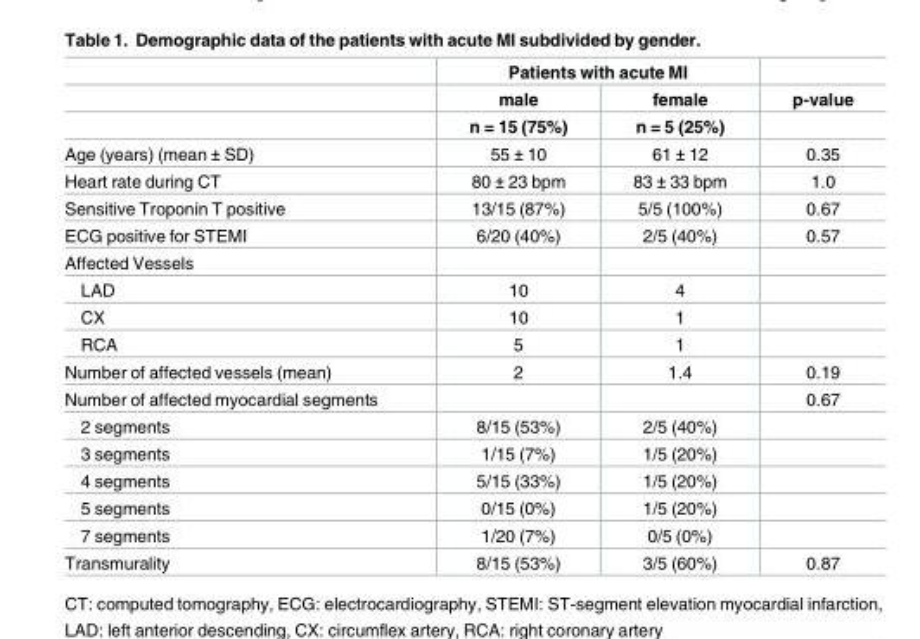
<table><thead><tr><td rowspan="2"></td><td colspan="2">Patients with acute MI</td><td rowspan="2">p-value</td></tr><tr><td>male</td><td>female</td></tr></thead><tbody><tr><td></td><td>n = 15 (75%)</td><td>n = 5 (25%)</td><td></td></tr><tr><td>Age (years) (mean ± SD)</td><td>55 ± 10</td><td>61 ± 12</td><td>0.35</td></tr><tr><td>Heart rate during CT</td><td>80 ± 23 bpm</td><td>83 ± 33 bpm</td><td>1.0</td></tr><tr><td>Sensitive Troponin T positive</td><td>13/15 (87%)</td><td>5/5 (100%)</td><td>0.67</td></tr><tr><td>ECG positive for STEMI</td><td>6/20 (40%)</td><td>2/5 (40%)</td><td>0.57</td></tr><tr><td colspan="4">Affected Vessels</td></tr><tr><td>LAD</td><td>10</td><td>4</td><td></td></tr><tr><td>CX</td><td>10</td><td>1</td><td></td></tr><tr><td>RCA</td><td>5</td><td>1</td><td></td></tr><tr><td>Number of affected vessels (mean)</td><td>2</td><td>1.4</td><td>0.19</td></tr><tr><td>Number of affected myocardial segments</td><td></td><td></td><td>0.67</td></tr><tr><td>2 segments</td><td>8/15 (53%)</td><td>2/5 (40%)</td><td></td></tr><tr><td>3 segments</td><td>1/15 (7%)</td><td>1/5 (20%)</td><td></td></tr><tr><td>4 segments</td><td>5/15 (33%)</td><td>1/5 (20%)</td><td></td></tr><tr><td>5 segments</td><td>0/15 (0%)</td><td>1/5 (20%)</td><td></td></tr><tr><td>7 segments</td><td>1/20 (7%)</td><td>0/5 (0%)</td><td></td></tr><tr><td>Transmurality</td><td>8/15 (53%)</td><td>3/5 (60%)</td><td>0.87</td></tr></tbody></table>